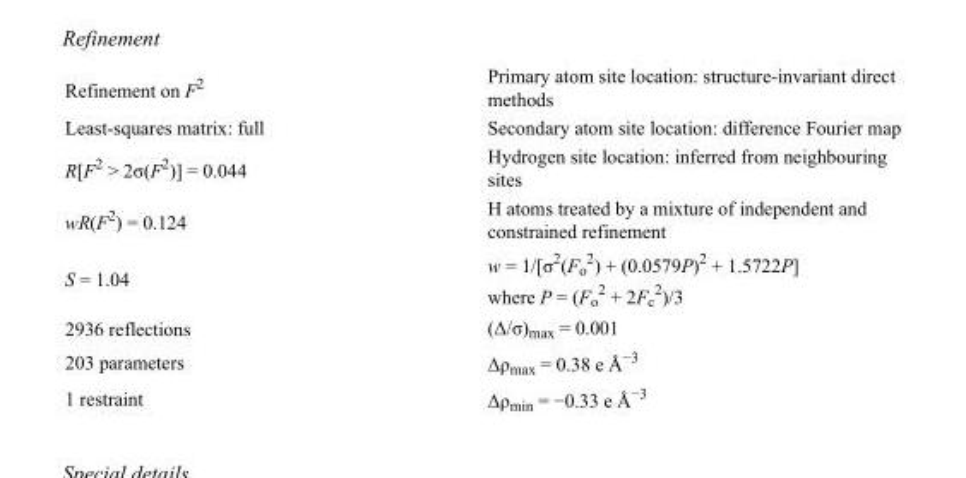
<table><tbody><tr><td>Refinement on F<sup>2</sup></td><td>Primary atom site location: structure-invariant direct methods</td></tr><tr><td>Least-squares matrix: full</td><td>Secondary atom site location: difference Fourier map</td></tr><tr><td>R[F<sup>2</sup> &gt; 2σ(F<sup>2</sup>)] = 0.044</td><td>Hydrogen site location: inferred from neighbouring sites</td></tr><tr><td>wR(F<sup>2</sup>) = 0.124</td><td>H atoms treated by a mixture of independent and constrained refinement</td></tr><tr><td>S = 1.04</td><td>w = 1/[σ<sup>2</sup>(F<sub>o</sub> <sup>2</sup>) + (0.0579P)<sup>2</sup> + 1.5722P] where P = (F<sub>o</sub> <sup>2</sup> + 2F<sub>c</sub> <sup>2</sup>)/3</td></tr><tr><td>2936 reflections</td><td>(Δ/σ)<sub>max</sub> = 0.001</td></tr><tr><td>203 parameters</td><td>Δρ<sub>max</sub> = 0.38 e Å<sup>−3</sup></td></tr><tr><td>1 restraint</td><td>Δρ<sub>min</sub> = −0.33 e Å<sup>−3</sup></td></tr></tbody></table>